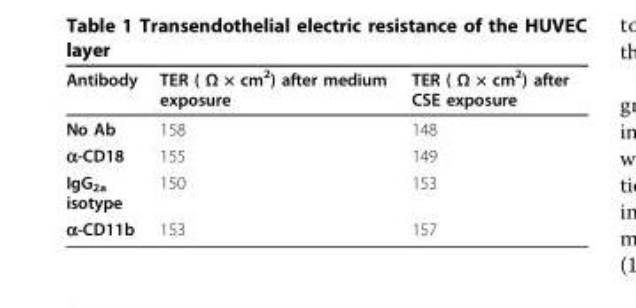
<table><thead><tr><td>Antibody</td><td>TER ( Ω × cm<sup>2</sup>) after medium exposure</td><td>TER ( Ω × cm<sup>2</sup>) after CSE exposure</td></tr></thead><tbody><tr><td>No Ab</td><td>158</td><td>148</td></tr><tr><td>α-CD18</td><td>155</td><td>149</td></tr><tr><td>IgG<sub>2a</sub> isotype</td><td>150</td><td>153</td></tr><tr><td>α-CD11b</td><td>153</td><td>157</td></tr></tbody></table>